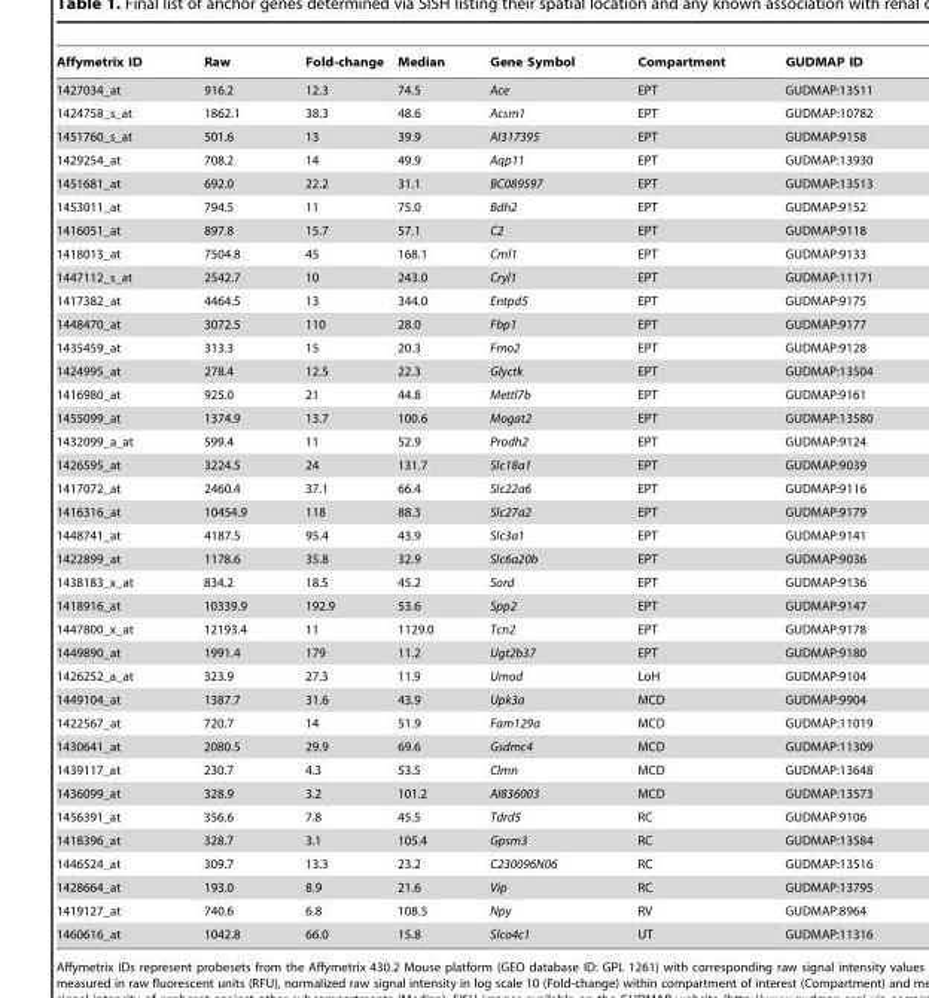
<table><thead><tr><td>Affymetrix ID</td><td>Raw</td><td>Fold-change</td><td>Median</td><td>Gene Symbol</td><td>Compartment</td><td>GUDMAP ID</td></tr></thead><tbody><tr><td>1427034_at</td><td>916.2</td><td>12.3</td><td>74.5</td><td>Ace</td><td>EPT</td><td>GUDMAP:13511</td></tr><tr><td>1424758_s_at</td><td>1862.1</td><td>38.3</td><td>48.6</td><td>Acsm1</td><td>EPT</td><td>GUDMAP:10782</td></tr><tr><td>1451760_s_at</td><td>501.6</td><td>13</td><td>39.9</td><td>AI317395</td><td>EPT</td><td>GUDMAP:9158</td></tr><tr><td>1429254_at</td><td>708.2</td><td>14</td><td>49.9</td><td>Aqp11</td><td>EPT</td><td>GUDMAP:13930</td></tr><tr><td>1451681_at</td><td>692.0</td><td>22.2</td><td>31.1</td><td>BC089597</td><td>EPT</td><td>GUDMAP:13513</td></tr><tr><td>1453011_at</td><td>794.5</td><td>11</td><td>75.0</td><td>Bdh2</td><td>EPT</td><td>GUDMAP:9152</td></tr><tr><td>1416051_at</td><td>897.8</td><td>15.7</td><td>57.1</td><td>C2</td><td>EPT</td><td>GUDMAP:9118</td></tr><tr><td>1418013_at</td><td>7504.8</td><td>45</td><td>168.1</td><td>Cml1</td><td>EPT</td><td>GUDMAP:9133</td></tr><tr><td>1447112_s_at</td><td>2542.7</td><td>10</td><td>243.0</td><td>Cryl1</td><td>EPT</td><td>GUDMAP:11171</td></tr><tr><td>1417382_at</td><td>4464.5</td><td>13</td><td>344.0</td><td>Entpd5</td><td>EPT</td><td>GUDMAP:9175</td></tr><tr><td>1448470_at</td><td>3072.5</td><td>110</td><td>28.0</td><td>Fbp1</td><td>EPT</td><td>GUDMAP:9177</td></tr><tr><td>1435459_at</td><td>313.3</td><td>15</td><td>20.3</td><td>Fmo2</td><td>EPT</td><td>GUDMAP:9128</td></tr><tr><td>1424995_at</td><td>278.4</td><td>12.5</td><td>22.3</td><td>Glyctk</td><td>EPT</td><td>GUDMAP:13504</td></tr><tr><td>1416980_at</td><td>925.0</td><td>21</td><td>44.8</td><td>Mettl7b</td><td>EPT</td><td>GUDMAP:9161</td></tr><tr><td>1455099_at</td><td>1374.9</td><td>13.7</td><td>100.6</td><td>Mogat2</td><td>EPT</td><td>GUDMAP:13580</td></tr><tr><td>1432099_a_at</td><td>599.4</td><td>11</td><td>52.9</td><td>Prodh2</td><td>EPT</td><td>GUDMAP:9124</td></tr><tr><td>1426595_at</td><td>3224.5</td><td>24</td><td>131.7</td><td>Slc18a1</td><td>EPT</td><td>GUDMAP:9039</td></tr><tr><td>1417072_at</td><td>2460.4</td><td>37.1</td><td>66.4</td><td>Slc22a6</td><td>EPT</td><td>GUDMAP:9116</td></tr><tr><td>1416316_at</td><td>10454.9</td><td>118</td><td>88.3</td><td>Slc27a2</td><td>EPT</td><td>GUDMAP:9179</td></tr><tr><td>1448741_at</td><td>4187.5</td><td>95.4</td><td>43.9</td><td>Slc3a1</td><td>EPT</td><td>GUDMAP:9141</td></tr><tr><td>1422899_at</td><td>1178.6</td><td>35.8</td><td>32.9</td><td>Slc6a20b</td><td>EPT</td><td>GUDMAP:9036</td></tr><tr><td>1438183_x_at</td><td>834.2</td><td>18.5</td><td>45.2</td><td>Sord</td><td>EPT</td><td>GUDMAP:9136</td></tr><tr><td>1418916_at</td><td>10339.9</td><td>192.9</td><td>53.6</td><td>Spp2</td><td>EPT</td><td>GUDMAP:9147</td></tr><tr><td>1447800_x_at</td><td>12193.4</td><td>11</td><td>1129.0</td><td>Tcn2</td><td>EPT</td><td>GUDMAP:9178</td></tr><tr><td>1449890_at</td><td>1991.4</td><td>179</td><td>11.2</td><td>Ugt2b37</td><td>EPT</td><td>GUDMAP:9180</td></tr><tr><td>1426252_a_at</td><td>323.9</td><td>27.3</td><td>11.9</td><td>Umod</td><td>LoH</td><td>GUDMAP:9104</td></tr><tr><td>1449104_at</td><td>1387.7</td><td>31.6</td><td>43.9</td><td>Upk3a</td><td>MCD</td><td>GUDMAP:9904</td></tr><tr><td>1422567_at</td><td>720.7</td><td>14</td><td>51.9</td><td>Fam129a</td><td>MCD</td><td>GUDMAP:11019</td></tr><tr><td>1430641_at</td><td>2080.5</td><td>29.9</td><td>69.6</td><td>Gsdmc4</td><td>MCD</td><td>GUDMAP:11309</td></tr><tr><td>1439117_at</td><td>230.7</td><td>4.3</td><td>53.5</td><td>Clmn</td><td>MCD</td><td>GUDMAP:13648</td></tr><tr><td>1436099_at</td><td>328.9</td><td>3.2</td><td>101.2</td><td>AI836003</td><td>MCD</td><td>GUDMAP:13573</td></tr><tr><td>1456391_at</td><td>356.6</td><td>7.8</td><td>45.5</td><td>Tdrd5</td><td>RC</td><td>GUDMAP:9106</td></tr><tr><td>1418396_at</td><td>328.7</td><td>3.1</td><td>105.4</td><td>Gpsm3</td><td>RC</td><td>GUDMAP:13584</td></tr><tr><td>1446524_at</td><td>309.7</td><td>13.3</td><td>23.2</td><td>C230096N06</td><td>RC</td><td>GUDMAP:13516</td></tr><tr><td>1428664_at</td><td>193.0</td><td>8.9</td><td>21.6</td><td>Vip</td><td>RC</td><td>GUDMAP:13795</td></tr><tr><td>1419127_at</td><td>740.6</td><td>6.8</td><td>108.5</td><td>Npy</td><td>RV</td><td>GUDMAP:8964</td></tr><tr><td>1460616_at</td><td>1042.8</td><td>66.0</td><td>15.8</td><td>Slco4c1</td><td>UT</td><td>GUDMAP:11316</td></tr></tbody></table>